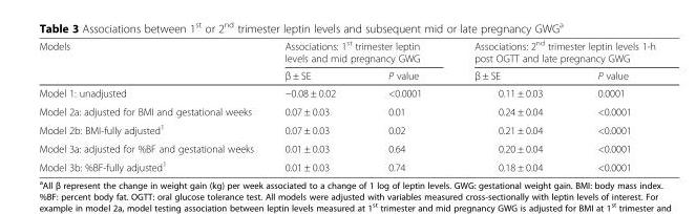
<table><thead><tr><td rowspan="2">Models</td><td colspan="2">Associations: 1<sup>st</sup> trimester leptin levels and mid pregnancy GWG</td><td colspan="2">Associations: 2<sup>nd</sup> trimester leptin levels 1-h post OGTT and late pregnancy GWG</td></tr><tr><td>β ± SE</td><td>P value</td><td>β ± SE</td><td>P value</td></tr></thead><tbody><tr><td>Model 1: unadjusted</td><td>−0.08 ± 0.02</td><td>&lt;0.0001</td><td>0.11 ± 0.03</td><td>0.0001</td></tr><tr><td>Model 2a: adjusted for BMI and gestational weeks</td><td>0.07 ± 0.03</td><td>0.01</td><td>0.24 ± 0.04</td><td>&lt;0.0001</td></tr><tr><td>Model 2b: BMI-fully adjusted<sup>1</sup></td><td>0.07 ± 0.03</td><td>0.02</td><td>0.21 ± 0.04</td><td>&lt;0.0001</td></tr><tr><td>Model 3a: adjusted for %BF and gestational weeks</td><td>0.01 ± 0.03</td><td>0.64</td><td>0.20 ± 0.04</td><td>&lt;0.0001</td></tr><tr><td>Model 3b: %BF-fully adjusted<sup>1</sup></td><td>0.01 ± 0.03</td><td>0.74</td><td>0.18 ± 0.04</td><td>&lt;0.0001</td></tr></tbody></table>